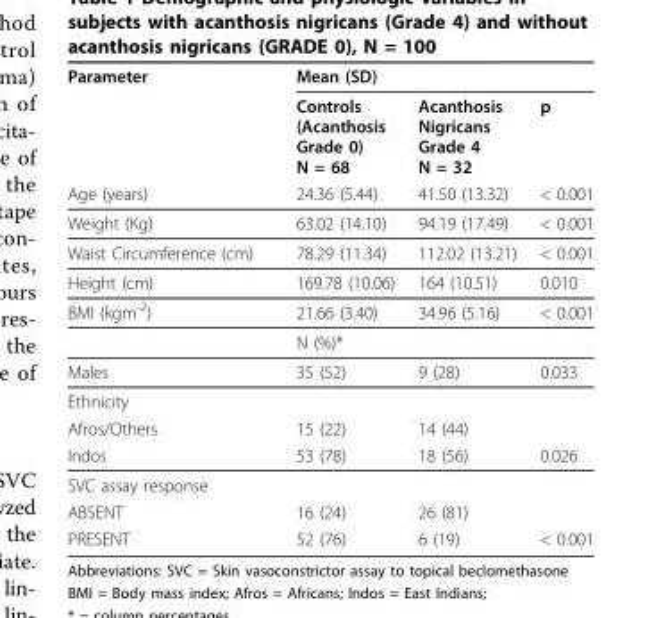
<table><thead><tr><td rowspan="3">Parameter Age (years)</td><td colspan="2">Mean (SD)</td><td rowspan="3">p &lt; 0.001</td></tr><tr><td rowspan="2">Controls (Acanthosis Grade 0) N = 68 24.36 (5.44)</td><td rowspan="2">Acanthosis Nigricans Grade 4 N = 32 41.50 (13.32)</td></tr><tr></tr></thead><tbody><tr><td>Weight (Kg)</td><td>63.02 (14.10)</td><td>94.19 (17.49)</td><td>&lt; 0.001</td></tr><tr><td>Waist Circumference (cm)</td><td>78.29 (11.34)</td><td>112.02 (13.21)</td><td>&lt; 0.001</td></tr><tr><td>Height (cm)</td><td>169.78 (10.06)</td><td>164 (10.51)</td><td>0.010</td></tr><tr><td rowspan="2">BMI (kgm<sup>-2</sup>)</td><td>21.66 (3.40)</td><td>34.96 (5.16)</td><td>&lt; 0.001</td></tr><tr><td colspan="2">N (%)*</td><td></td></tr><tr><td>Males</td><td>35 (52)</td><td>9 (28)</td><td>0.033</td></tr><tr><td colspan="4">Ethnicity</td></tr><tr><td>Afros/Others</td><td>15 (22)</td><td>14 (44)</td><td></td></tr><tr><td>Indos</td><td>53 (78)</td><td>18 (56)</td><td>0.026</td></tr><tr><td colspan="4">SVC assay response</td></tr><tr><td>ABSENT</td><td>16 (24)</td><td>26 (81)</td><td></td></tr><tr><td>PRESENT</td><td>52 (76)</td><td>6 (19)</td><td>&lt; 0.001</td></tr></tbody></table>